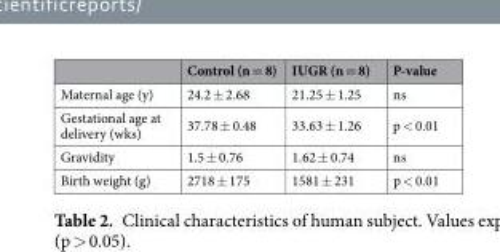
<table><thead><tr><td></td><td>Control (n = 8)</td><td>IUGR (n = 8)</td><td>P-value</td></tr></thead><tbody><tr><td>Maternal age (y)</td><td>24.2 ± 2.68</td><td>21.25 ± 1.25</td><td>ns</td></tr><tr><td>Gestational age at delivery (wks)</td><td>37.78 ± 0.48</td><td>33.63 ± 1.26</td><td>p &lt; 0.01</td></tr><tr><td>Gravidity</td><td>1.5 ± 0.76</td><td>1.62 ± 0.74</td><td>ns</td></tr><tr><td>Birth weight (g)</td><td>2718 ± 175</td><td>1581 ± 231</td><td>p &lt; 0.01</td></tr></tbody></table>